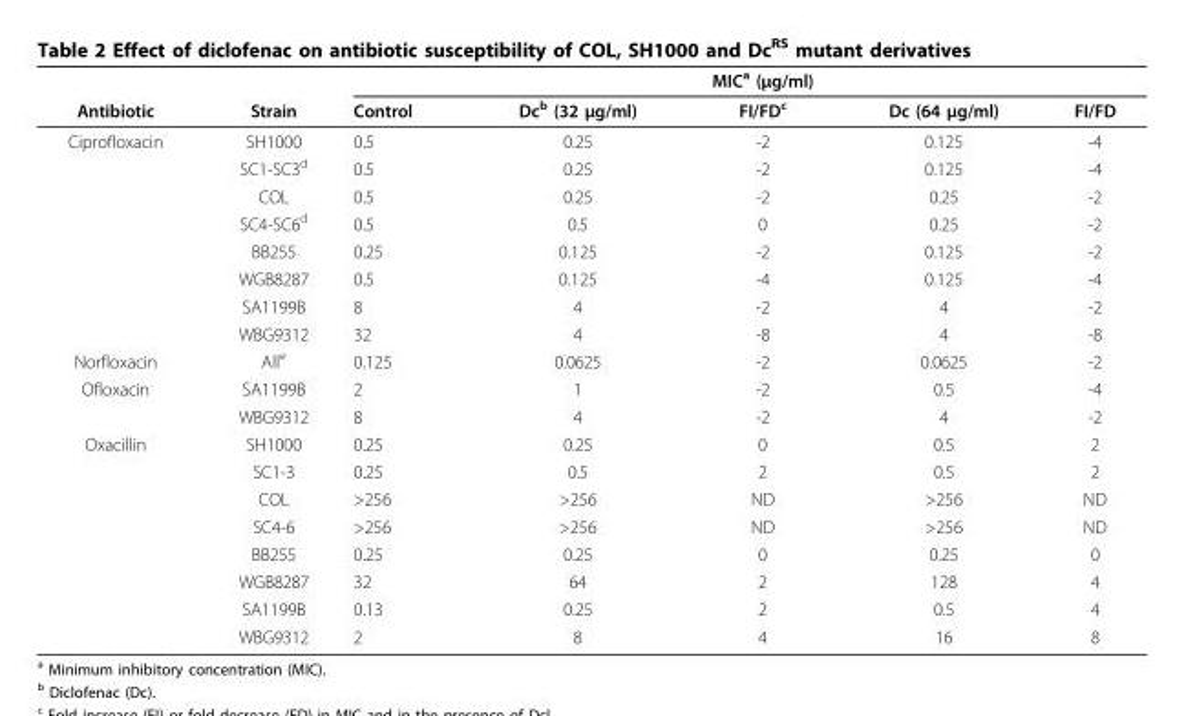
<table><thead><tr><td rowspan="2">Antibiotic</td><td rowspan="2">Strain</td><td rowspan="2">Control</td><td rowspan="2">Dc<sup>b</sup> (32 μg/ml)</td><td rowspan="2">MIC<sup>a</sup> (μg/ml) FI/FD<sup>c</sup></td><td rowspan="2">Dc (64 μg/ml)</td><td rowspan="2">FI/FD</td></tr><tr></tr></thead><tbody><tr><td rowspan="8">Ciprofloxacin</td><td>SH1000</td><td>0.5</td><td>0.25</td><td>-2</td><td>0.125</td><td>-4</td></tr><tr><td>SC1-SC3<sup>d</sup></td><td>0.5</td><td>0.25</td><td>-2</td><td>0.125</td><td>-4</td></tr><tr><td>COL</td><td>0.5</td><td>0.25</td><td>-2</td><td>0.25</td><td>-2</td></tr><tr><td>SC4-SC6<sup>d</sup></td><td>0.5</td><td>0.5</td><td>0</td><td>0.25</td><td>-2</td></tr><tr><td>BB255</td><td>0.25</td><td>0.125</td><td>-2</td><td>0.125</td><td>-2</td></tr><tr><td>WGB8287</td><td>0.5</td><td>0.125</td><td>-4</td><td>0.125</td><td>-4</td></tr><tr><td>SA1199B</td><td>8</td><td>4</td><td>-2</td><td>4</td><td>-2</td></tr><tr><td>WBG9312</td><td>32</td><td>4</td><td>-8</td><td>4</td><td>-8</td></tr><tr><td>Norfloxacin</td><td>All<sup>e</sup></td><td>0.125</td><td>0.0625</td><td>-2</td><td>0.0625</td><td>-2</td></tr><tr><td rowspan="2">Ofloxacin</td><td>SA1199B</td><td>2</td><td>1</td><td>-2</td><td>0.5</td><td>-4</td></tr><tr><td>WBG9312</td><td>8</td><td>4</td><td>-2</td><td>4</td><td>-2</td></tr><tr><td rowspan="8">Oxacillin</td><td>SH1000</td><td>0.25</td><td>0.25</td><td>0</td><td>0.5</td><td>2</td></tr><tr><td>SC1-3</td><td>0.25</td><td>0.5</td><td>2</td><td>0.5</td><td>2</td></tr><tr><td>COL</td><td>&gt;256</td><td>&gt;256</td><td>ND</td><td>&gt;256</td><td>ND</td></tr><tr><td>SC4-6</td><td>&gt;256</td><td>&gt;256</td><td>ND</td><td>&gt;256</td><td>ND</td></tr><tr><td>BB255</td><td>0.25</td><td>0.25</td><td>0</td><td>0.25</td><td>0</td></tr><tr><td>WGB8287</td><td>32</td><td>64</td><td>2</td><td>128</td><td>4</td></tr><tr><td>SA1199B</td><td>0.13</td><td>0.25</td><td>2</td><td>0.5</td><td>4</td></tr><tr><td>WBG9312</td><td>2</td><td>8</td><td>4</td><td>16</td><td>8</td></tr></tbody></table>